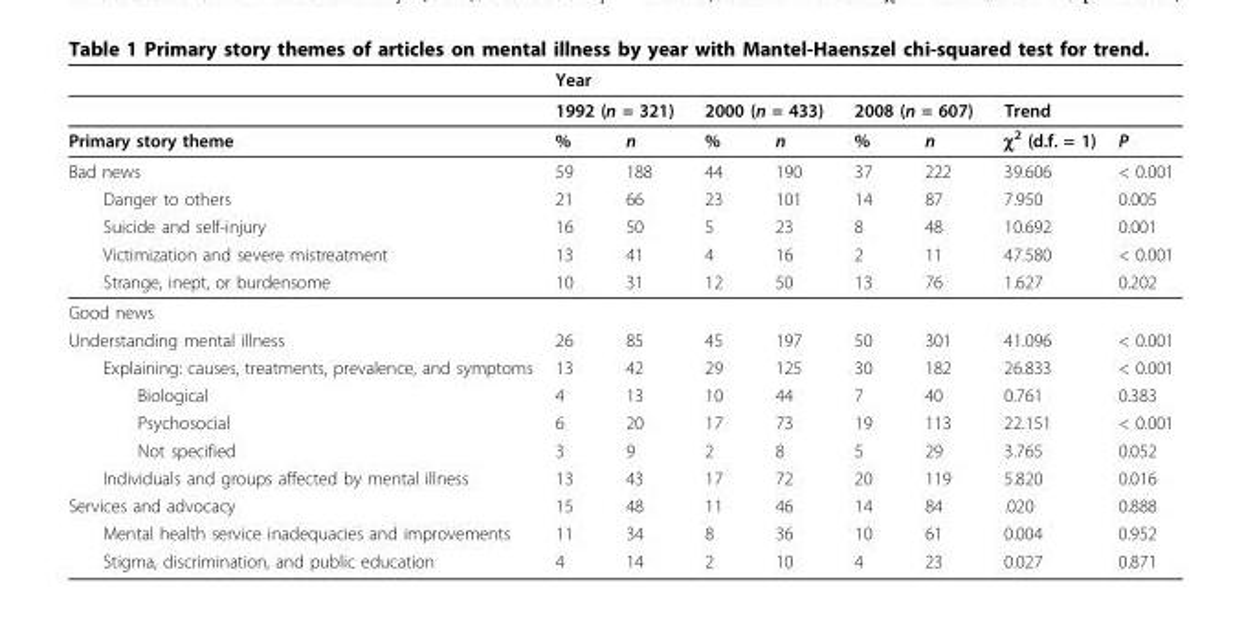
<table><thead><tr><td rowspan="3">Primary story theme</td><td colspan="8">Year</td></tr><tr><td colspan="2">1992 (n = 321)</td><td colspan="2">2000 (n = 433)</td><td colspan="2">2008 (n = 607)</td><td colspan="2">Trend</td></tr><tr><td>%</td><td>n</td><td>%</td><td>n</td><td>%</td><td>n</td><td>χ<sup>2</sup> (d.f. = 1)</td><td>P</td></tr></thead><tbody><tr><td>Bad news</td><td>59</td><td>188</td><td>44</td><td>190</td><td>37</td><td>222</td><td>39.606</td><td>&lt; 0.001</td></tr><tr><td>Danger to others</td><td>21</td><td>66</td><td>23</td><td>101</td><td>14</td><td>87</td><td>7.950</td><td>0.005</td></tr><tr><td>Suicide and self-injury</td><td>16</td><td>50</td><td>5</td><td>23</td><td>8</td><td>48</td><td>10.692</td><td>0.001</td></tr><tr><td>Victimization and severe mistreatment</td><td>13</td><td>41</td><td>4</td><td>16</td><td>2</td><td>11</td><td>47.580</td><td>&lt; 0.001</td></tr><tr><td>Strange, inept, or burdensome</td><td>10</td><td>31</td><td>12</td><td>50</td><td>13</td><td>76</td><td>1.627</td><td>0.202</td></tr><tr><td colspan="9">Good news</td></tr><tr><td>Understanding mental illness</td><td>26</td><td>85</td><td>45</td><td>197</td><td>50</td><td>301</td><td>41.096</td><td>&lt; 0.001</td></tr><tr><td>Explaining: causes, treatments, prevalence, and symptoms</td><td>13</td><td>42</td><td>29</td><td>125</td><td>30</td><td>182</td><td>26.833</td><td>&lt; 0.001</td></tr><tr><td>Biological</td><td>4</td><td>13</td><td>10</td><td>44</td><td>7</td><td>40</td><td>0.761</td><td>0.383</td></tr><tr><td>Psychosocial</td><td>6</td><td>20</td><td>17</td><td>73</td><td>19</td><td>113</td><td>22.151</td><td>&lt; 0.001</td></tr><tr><td>Not specified</td><td>3</td><td>9</td><td>2</td><td>8</td><td>5</td><td>29</td><td>3.765</td><td>0.052</td></tr><tr><td>Individuals and groups affected by mental illness</td><td>13</td><td>43</td><td>17</td><td>72</td><td>20</td><td>119</td><td>5.820</td><td>0.016</td></tr><tr><td>Services and advocacy</td><td>15</td><td>48</td><td>11</td><td>46</td><td>14</td><td>84</td><td>.020</td><td>0.888</td></tr><tr><td>Mental health service inadequacies and improvements</td><td>11</td><td>34</td><td>8</td><td>36</td><td>10</td><td>61</td><td>0.004</td><td>0.952</td></tr><tr><td>Stigma, discrimination, and public education</td><td>4</td><td>14</td><td>2</td><td>10</td><td>4</td><td>23</td><td>0.027</td><td>0.871</td></tr></tbody></table>